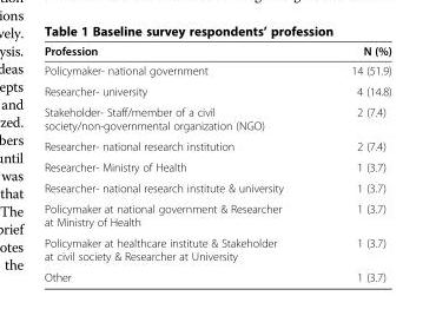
<table><thead><tr><td>Profession</td><td>N (%)</td></tr></thead><tbody><tr><td>Policymaker- national government</td><td>14 (51.9)</td></tr><tr><td>Researcher- university</td><td>4 (14.8)</td></tr><tr><td>Stakeholder- Staff/member of a civil society/non-governmental organization (NGO)</td><td>2 (7.4)</td></tr><tr><td>Researcher- national research institution</td><td>2 (7.4)</td></tr><tr><td>Researcher- Ministry of Health</td><td>1 (3.7)</td></tr><tr><td>Researcher- national research institute &amp; university</td><td>1 (3.7)</td></tr><tr><td>Policymaker at national government &amp; Researcher at Ministry of Health</td><td>1 (3.7)</td></tr><tr><td>Policymaker at healthcare institute &amp; Stakeholder at civil society &amp; Researcher at University</td><td>1 (3.7)</td></tr><tr><td>Other</td><td>1 (3.7)</td></tr></tbody></table>